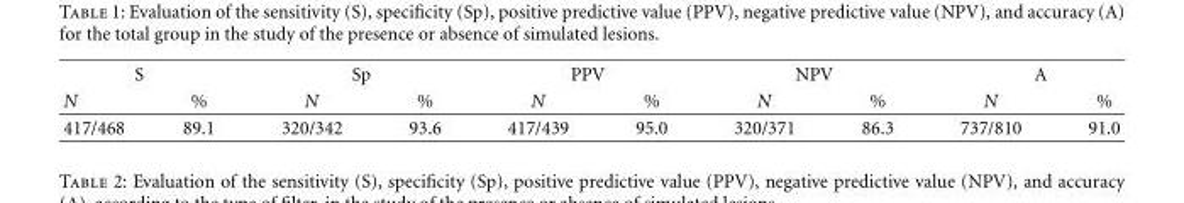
<table><thead><tr><td colspan="2">S</td><td colspan="2">Sp</td><td colspan="2">PPV</td><td colspan="2">NPV</td><td colspan="2">A</td></tr><tr><td>N</td><td>%</td><td>N</td><td>%</td><td>N</td><td>%</td><td>N</td><td>%</td><td>N</td><td>%</td></tr></thead><tbody><tr><td>417/468</td><td>89.1</td><td>320/342</td><td>93.6</td><td>417/439</td><td>95.0</td><td>320/371</td><td>86.3</td><td>737/810</td><td>91.0</td></tr></tbody></table>